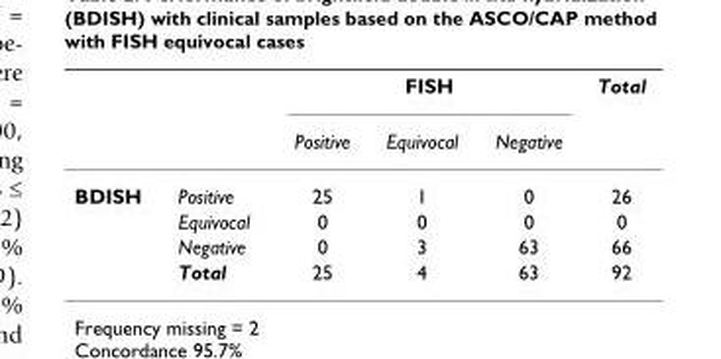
<table><thead><tr><td rowspan="2"></td><td rowspan="2"></td><td colspan="3">FISH</td><td rowspan="2">Total</td></tr><tr><td>Positive</td><td>Equivocal</td><td>Negative</td></tr></thead><tbody><tr><td rowspan="4">BDISH</td><td>Positive</td><td>25</td><td>1</td><td>0</td><td>26</td></tr><tr><td>Equivocal</td><td>0</td><td>0</td><td>0</td><td>0</td></tr><tr><td>Negative</td><td>0</td><td>3</td><td>63</td><td>66</td></tr><tr><td>Total</td><td>25</td><td>4</td><td>63</td><td>92</td></tr></tbody></table>